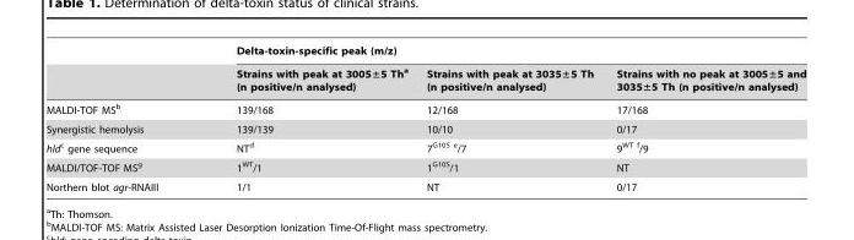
<table><thead><tr><td rowspan="2"></td><td colspan="3">Delta-toxin-specific peak (m/z)</td></tr><tr><td>Strains with peak at 3005±5 Th<sup>a</sup> (n positive/n analysed)</td><td>Strains with peak at 3035±5 Th (n positive/n analysed)</td><td>Strains with no peak at 3005±5 and 3035±5 Th (n positive/n analysed)</td></tr></thead><tbody><tr><td>MALDI-TOF MS<sup>b</sup></td><td>139/168</td><td>12/168</td><td>17/168</td></tr><tr><td>Synergistic hemolysis</td><td>139/139</td><td>10/10</td><td>0/17</td></tr><tr><td>hldc gene sequence</td><td>NT<sup>d</sup></td><td>7<sup>G10S</sup> e/7</td><td>9<sup>WT</sup> f/9</td></tr><tr><td>MALDI/TOF-TOF MS<sup>g</sup></td><td>1<sup>WT</sup>/1</td><td>1<sup>G10S</sup>/1</td><td>NT</td></tr><tr><td>Northern blot agr-RNAIII</td><td>1/1</td><td>NT</td><td>0/17</td></tr></tbody></table>